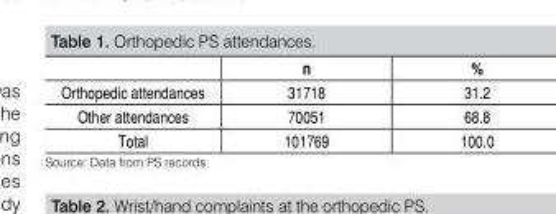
<table><thead><tr><td></td><td>n</td><td>%</td></tr></thead><tbody><tr><td>Orthopedic attendances</td><td>31718</td><td>31.2</td></tr><tr><td>Other attendances</td><td>70051</td><td>68.8</td></tr><tr><td>Total</td><td>101769</td><td>100.0</td></tr></tbody></table>